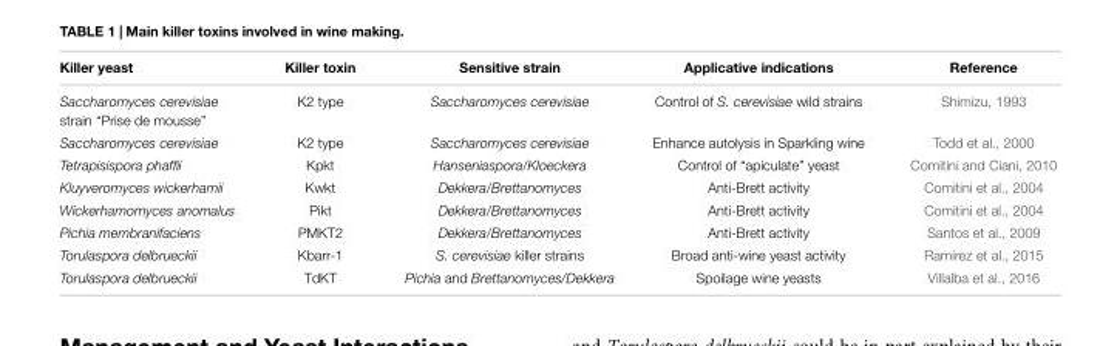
<table><thead><tr><td>Killer yeast</td><td>Killer toxin</td><td>Sensitive strain</td><td>Applicative indications</td><td>Reference</td></tr></thead><tbody><tr><td>Saccharomyces cerevisiae strain “Prise de mousse”</td><td>K2 type</td><td>Saccharomyces cerevisiae</td><td>Control of S. cerevisiae wild strains</td><td>Shimizu, 1993</td></tr><tr><td>Saccharomyces cerevisiae</td><td>K2 type</td><td>Saccharomyces cerevisiae</td><td>Enhance autolysis in Sparkling wine</td><td>Todd et al., 2000</td></tr><tr><td>Tetrapisispora phaffii</td><td>Kpkt</td><td>Hanseniaspora/Kloeckera</td><td>Control of “apiculate” yeast</td><td>Comitini and Ciani, 2010</td></tr><tr><td>Kluyveromyces wickerhamii</td><td>Kwkt</td><td>Dekkera/Brettanomyces</td><td>Anti-Brett activity</td><td>Comitini et al., 2004</td></tr><tr><td>Wickerhamomyces anomalus</td><td>Pikt</td><td>Dekkera/Brettanomyces</td><td>Anti-Brett activity</td><td>Comitini et al., 2004</td></tr><tr><td>Pichia membranifaciens</td><td>PMKT2</td><td>Dekkera/Brettanomyces</td><td>Anti-Brett activity</td><td>Santos et al., 2009</td></tr><tr><td>Torulaspora delbrueckii</td><td>Kbarr-1</td><td>S. cerevisiae killer strains</td><td>Broad anti-wine yeast activity</td><td>Ramírez et al., 2015</td></tr><tr><td>Torulaspora delbrueckii</td><td>TdKT</td><td>Pichia and Brettanomyces/Dekkera</td><td>Spoilage wine yeasts</td><td>Villalba et al., 2016</td></tr></tbody></table>